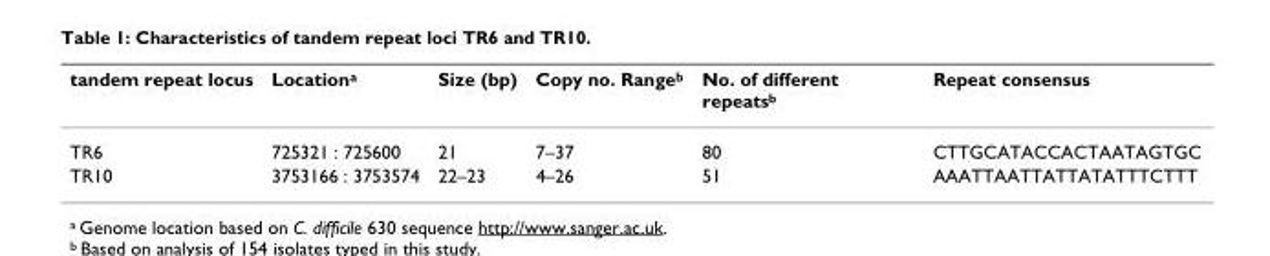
<table><thead><tr><td>tandem repeat locus</td><td>Location<sup>a</sup></td><td>Size (bp)</td><td>Copy no. Range<sup>b</sup></td><td>No. of different repeats<sup>b</sup></td><td>Repeat consensus</td></tr></thead><tbody><tr><td>TR6</td><td>725321 : 725600</td><td>21</td><td>7–37</td><td>80</td><td>CTTGCATACCACTAATAGTGC</td></tr><tr><td>TR10</td><td>3753166 : 3753574</td><td>22–23</td><td>4–26</td><td>51</td><td>AAATTAATTATTATATTTCTTT</td></tr></tbody></table>